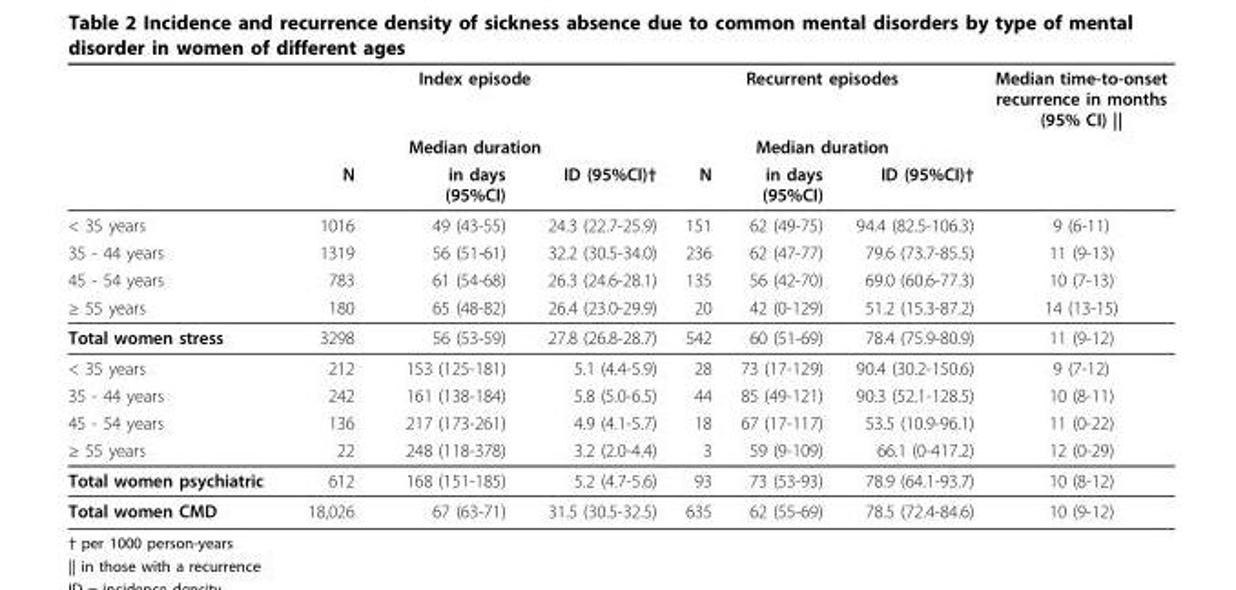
<table><thead><tr><td rowspan="3"></td><td rowspan="2" colspan="3">Index episode Median duration</td><td rowspan="2" colspan="3">Recurrent episodes Median duration</td><td rowspan="3">Median time-to-onset recurrence in months (95% CI) ||</td></tr><tr></tr><tr><td>N</td><td>in days (95%CI)</td><td>ID (95%CI)†</td><td>N</td><td>in days (95%CI)</td><td>ID (95%CI)†</td></tr></thead><tbody><tr><td>&lt; 35 years</td><td>1016</td><td>49 (43-55)</td><td>24.3 (22.7-25.9)</td><td>151</td><td>62 (49-75)</td><td>94.4 (82.5-106.3)</td><td>9 (6-11)</td></tr><tr><td>35 - 44 years</td><td>1319</td><td>56 (51-61)</td><td>32.2 (30.5-34.0)</td><td>236</td><td>62 (47-77)</td><td>79.6 (73.7-85.5)</td><td>11 (9-13)</td></tr><tr><td>45 - 54 years</td><td>783</td><td>61 (54-68)</td><td>26.3 (24.6-28.1)</td><td>135</td><td>56 (42-70)</td><td>69.0 (60.6-77.3)</td><td>10 (7-13)</td></tr><tr><td>≥ 55 years</td><td>180</td><td>65 (48-82)</td><td>26.4 (23.0-29.9)</td><td>20</td><td>42 (0-129)</td><td>51.2 (15.3-87.2)</td><td>14 (13-15)</td></tr><tr><td>Total women stress</td><td>3298</td><td>56 (53-59)</td><td>27.8 (26.8-28.7)</td><td>542</td><td>60 (51-69)</td><td>78.4 (75.9-80.9)</td><td>11 (9-12)</td></tr><tr><td>&lt; 35 years</td><td>212</td><td>153 (125-181)</td><td>5.1 (4.4-5.9)</td><td>28</td><td>73 (17-129)</td><td>90.4 (30.2-150.6)</td><td>9 (7-12)</td></tr><tr><td>35 - 44 years</td><td>242</td><td>161 (138-184)</td><td>5.8 (5.0-6.5)</td><td>44</td><td>85 (49-121)</td><td>90.3 (52.1-128.5)</td><td>10 (8-11)</td></tr><tr><td>45 - 54 years</td><td>136</td><td>217 (173-261)</td><td>4.9 (4.1-5.7)</td><td>18</td><td>67 (17-117)</td><td>53.5 (10.9-96.1)</td><td>11 (0-22)</td></tr><tr><td>≥ 55 years</td><td>22</td><td>248 (118-378)</td><td>3.2 (2.0-4.4)</td><td>3</td><td>59 (9-109)</td><td>66.1 (0-417.2)</td><td>12 (0-29)</td></tr><tr><td>Total women psychiatric</td><td>612</td><td>168 (151-185)</td><td>5.2 (4.7-5.6)</td><td>93</td><td>73 (53-93)</td><td>78.9 (64.1-93.7)</td><td>10 (8-12)</td></tr><tr><td>Total women CMD</td><td>18,026</td><td>67 (63-71)</td><td>31.5 (30.5-32.5)</td><td>635</td><td>62 (55-69)</td><td>78.5 (72.4-84.6)</td><td>10 (9-12)</td></tr></tbody></table>